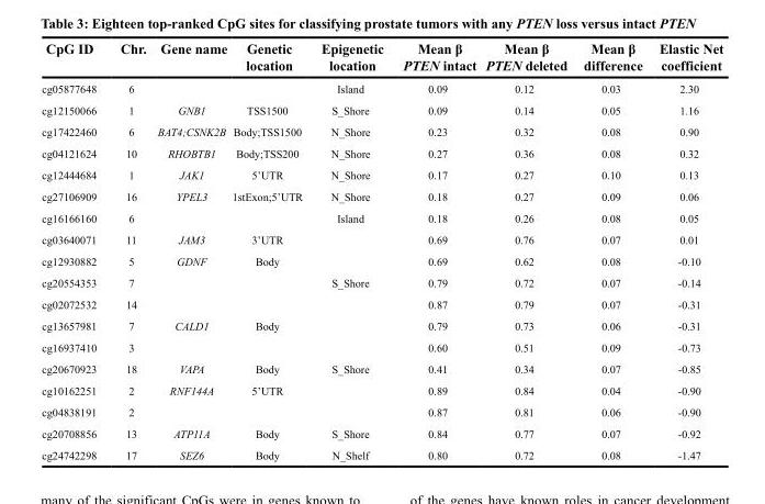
<table><thead><tr><td>CpG ID</td><td>Chr.</td><td>Gene name</td><td>Genetic location</td><td>Epigenetic location</td><td>Mean β PTEN intact</td><td>Mean β PTEN deleted</td><td>Mean β difference</td><td>Elastic Net coefficient</td></tr></thead><tbody><tr><td>cg05877648</td><td>6</td><td></td><td></td><td>Island</td><td>0.09</td><td>0.12</td><td>0.03</td><td>2.30</td></tr><tr><td>cg12150066</td><td>1</td><td>GNB1</td><td>TSS1500</td><td>S_Shore</td><td>0.09</td><td>0.14</td><td>0.05</td><td>1.16</td></tr><tr><td>cg17422460</td><td>6</td><td>BAT4;CSNK2B</td><td>Body;TSS1500</td><td>N_Shore</td><td>0.23</td><td>0.32</td><td>0.08</td><td>0.90</td></tr><tr><td>cg04121624</td><td>10</td><td>RHOBTB1</td><td>Body;TSS200</td><td>N_Shore</td><td>0.27</td><td>0.36</td><td>0.08</td><td>0.32</td></tr><tr><td>cg12444684</td><td>1</td><td>JAK1</td><td>5’UTR</td><td>N_Shore</td><td>0.17</td><td>0.27</td><td>0.10</td><td>0.13</td></tr><tr><td>cg27106909</td><td>16</td><td>YPEL3</td><td>1stExon;5’UTR</td><td>N_Shore</td><td>0.18</td><td>0.27</td><td>0.09</td><td>0.06</td></tr><tr><td>cg16166160</td><td>6</td><td></td><td></td><td>Island</td><td>0.18</td><td>0.26</td><td>0.08</td><td>0.05</td></tr><tr><td>cg03640071</td><td>11</td><td>JAM3</td><td>3’UTR</td><td></td><td>0.69</td><td>0.76</td><td>0.07</td><td>0.01</td></tr><tr><td>cg12930882</td><td>5</td><td>GDNF</td><td>Body</td><td></td><td>0.69</td><td>0.62</td><td>0.08</td><td>-0.10</td></tr><tr><td>cg20554353</td><td>7</td><td></td><td></td><td>S_Shore</td><td>0.79</td><td>0.72</td><td>0.07</td><td>-0.14</td></tr><tr><td>cg02072532</td><td>14</td><td></td><td></td><td></td><td>0.87</td><td>0.79</td><td>0.07</td><td>-0.31</td></tr><tr><td>cg13657981</td><td>7</td><td>CALD1</td><td>Body</td><td></td><td>0.79</td><td>0.73</td><td>0.06</td><td>-0.31</td></tr><tr><td>cg16937410</td><td>3</td><td></td><td></td><td></td><td>0.60</td><td>0.51</td><td>0.09</td><td>-0.73</td></tr><tr><td>cg20670923</td><td>18</td><td>VAPA</td><td>Body</td><td>S_Shore</td><td>0.41</td><td>0.34</td><td>0.07</td><td>-0.85</td></tr><tr><td>cg10162251</td><td>2</td><td>RNF144A</td><td>5’UTR</td><td></td><td>0.89</td><td>0.84</td><td>0.04</td><td>-0.90</td></tr><tr><td>cg04838191</td><td>2</td><td></td><td></td><td></td><td>0.87</td><td>0.81</td><td>0.06</td><td>-0.90</td></tr><tr><td>cg20708856</td><td>13</td><td>ATP11A</td><td>Body</td><td>S_Shore</td><td>0.84</td><td>0.77</td><td>0.07</td><td>-0.92</td></tr><tr><td>cg24742298</td><td>17</td><td>SEZ6</td><td>Body</td><td>N_Shelf</td><td>0.80</td><td>0.72</td><td>0.08</td><td>-1.47</td></tr></tbody></table>